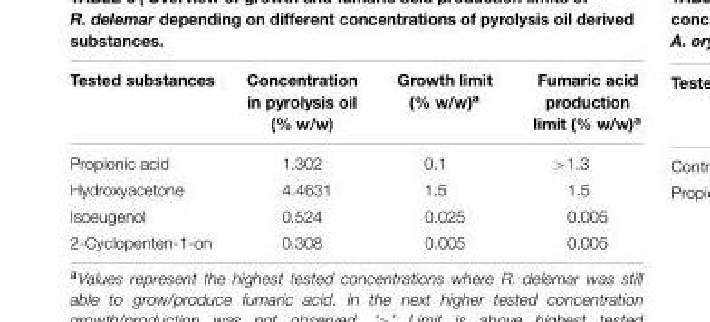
<table><thead><tr><td>Tested substances</td><td>Concentration in pyrolysis oil (% w/w)</td><td>Growth limit (% w/w)<sup>a</sup></td><td>Fumaric acid production limit (% w/w)<sup>a</sup></td></tr></thead><tbody><tr><td>Propionic acid</td><td>1.302</td><td>0.1</td><td>&gt;1.3</td></tr><tr><td>Hydroxyacetone</td><td>4.4631</td><td>1.5</td><td>1.5</td></tr><tr><td>Isoeugenol</td><td>0.524</td><td>0.025</td><td>0.005</td></tr><tr><td>2-Cyclopenten-1-on</td><td>0.308</td><td>0.005</td><td>0.005</td></tr></tbody></table>